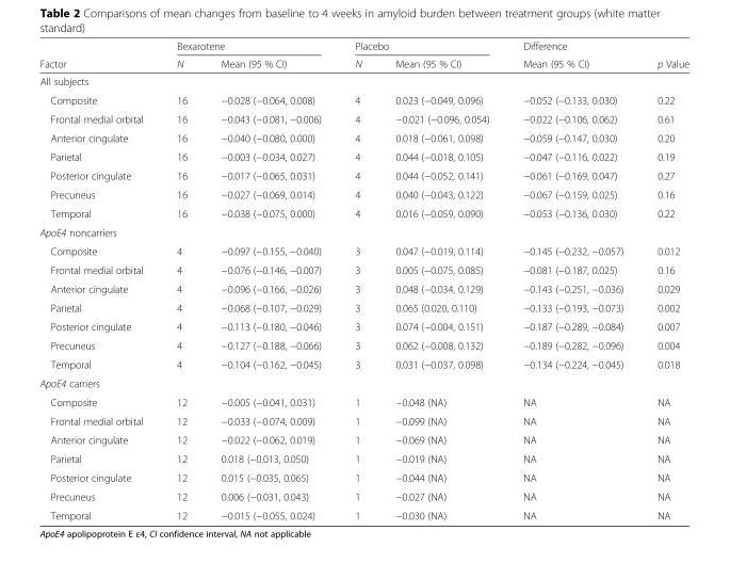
<table><thead><tr><td rowspan="2">Factor</td><td colspan="2">Bexarotene</td><td colspan="2">Placebo</td><td rowspan="2">Difference Mean (95 % CI)</td><td rowspan="2">p Value</td></tr><tr><td>N</td><td>Mean (95 % CI)</td><td>N</td><td>Mean (95 % CI)</td></tr></thead><tbody><tr><td colspan="7">All subjects</td></tr><tr><td>Composite</td><td>16</td><td>−0.028 (−0.064, 0.008)</td><td>4</td><td>0.023 (−0.049, 0.096)</td><td>−0.052 (−0.133, 0.030)</td><td>0.22</td></tr><tr><td>Frontal medial orbital</td><td>16</td><td>−0.043 (−0.081, −0.006)</td><td>4</td><td>−0.021 (−0.096, 0.054)</td><td>−0.022 (−0.106, 0.062)</td><td>0.61</td></tr><tr><td>Anterior cingulate</td><td>16</td><td>−0.040 (−0.080, 0.000)</td><td>4</td><td>0.018 (−0.061, 0.098)</td><td>−0.059 (−0.147, 0.030)</td><td>0.20</td></tr><tr><td>Parietal</td><td>16</td><td>−0.003 (−0.034, 0.027)</td><td>4</td><td>0.044 (−0.018, 0.105)</td><td>−0.047 (−0.116, 0.022)</td><td>0.19</td></tr><tr><td>Posterior cingulate</td><td>16</td><td>−0.017 (−0.065, 0.031)</td><td>4</td><td>0.044 (−0.052, 0.141)</td><td>−0.061 (−0.169, 0.047)</td><td>0.27</td></tr><tr><td>Precuneus</td><td>16</td><td>−0.027 (−0.069, 0.014)</td><td>4</td><td>0.040 (−0.043, 0.122)</td><td>−0.067 (−0.159, 0.025)</td><td>0.16</td></tr><tr><td>Temporal</td><td>16</td><td>−0.038 (−0.075, 0.000)</td><td>4</td><td>0.016 (−0.059, 0.090)</td><td>−0.053 (−0.136, 0.030)</td><td>0.22</td></tr><tr><td colspan="7">ApoE4 noncarriers</td></tr><tr><td>Composite</td><td>4</td><td>−0.097 (−0.155, −0.040)</td><td>3</td><td>0.047 (−0.019, 0.114)</td><td>−0.145 (−0.232, −0.057)</td><td>0.012</td></tr><tr><td>Frontal medial orbital</td><td>4</td><td>−0.076 (−0.146, −0.007)</td><td>3</td><td>0.005 (−0.075, 0.085)</td><td>−0.081 (−0.187, 0.025)</td><td>0.16</td></tr><tr><td>Anterior cingulate</td><td>4</td><td>−0.096 (−0.166, −0.026)</td><td>3</td><td>0.048 (−0.034, 0.129)</td><td>−0.143 (−0.251, −0.036)</td><td>0.029</td></tr><tr><td>Parietal</td><td>4</td><td>−0.068 (−0.107, −0.029)</td><td>3</td><td>0.065 (0.020, 0.110)</td><td>−0.133 (−0.193, −0.073)</td><td>0.002</td></tr><tr><td>Posterior cingulate</td><td>4</td><td>−0.113 (−0.180, −0.046)</td><td>3</td><td>0.074 (−0.004, 0.151)</td><td>−0.187 (−0.289, −0.084)</td><td>0.007</td></tr><tr><td>Precuneus</td><td>4</td><td>−0.127 (−0.188, −0.066)</td><td>3</td><td>0.062 (−0.008, 0.132)</td><td>−0.189 (−0.282, −0.096)</td><td>0.004</td></tr><tr><td>Temporal</td><td>4</td><td>−0.104 (−0.162, −0.045)</td><td>3</td><td>0.031 (−0.037, 0.098)</td><td>−0.134 (−0.224, −0.045)</td><td>0.018</td></tr><tr><td colspan="7">ApoE4 carriers</td></tr><tr><td>Composite</td><td>12</td><td>−0.005 (−0.041, 0.031)</td><td>1</td><td>−0.048 (NA)</td><td>NA</td><td>NA</td></tr><tr><td>Frontal medial orbital</td><td>12</td><td>−0.033 (−0.074, 0.009)</td><td>1</td><td>−0.099 (NA)</td><td>NA</td><td>NA</td></tr><tr><td>Anterior cingulate</td><td>12</td><td>−0.022 (−0.062, 0.019)</td><td>1</td><td>−0.069 (NA)</td><td>NA</td><td>NA</td></tr><tr><td>Parietal</td><td>12</td><td>0.018 (−0.013, 0.050)</td><td>1</td><td>−0.019 (NA)</td><td>NA</td><td>NA</td></tr><tr><td>Posterior cingulate</td><td>12</td><td>0.015 (−0.035, 0.065)</td><td>1</td><td>−0.044 (NA)</td><td>NA</td><td>NA</td></tr><tr><td>Precuneus</td><td>12</td><td>0.006 (−0.031, 0.043)</td><td>1</td><td>−0.027 (NA)</td><td>NA</td><td>NA</td></tr><tr><td>Temporal</td><td>12</td><td>−0.015 (−0.055, 0.024)</td><td>1</td><td>−0.030 (NA)</td><td>NA</td><td>NA</td></tr></tbody></table>